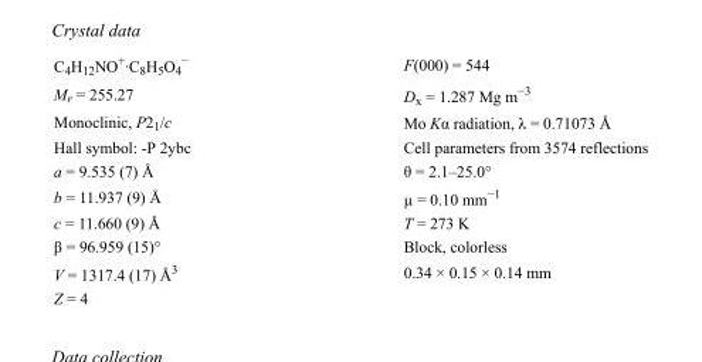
<table><tbody><tr><td>C<sub>4</sub>H<sub>12</sub>NO<sup>+</sup>·C<sub>8</sub>H<sub>5</sub>O<sub>4</sub> <sup>−</sup></td><td>F(000) = 544</td></tr><tr><td>M<sub>r</sub> = 255.27</td><td>D<sub>x</sub> = 1.287 Mg m<sup>−3</sup></td></tr><tr><td>Monoclinic, P2<sub>1</sub>/c</td><td>Mo Kα radiation, λ = 0.71073 Å</td></tr><tr><td>Hall symbol: -P 2ybc</td><td>Cell parameters from 3574 reflections</td></tr><tr><td>a = 9.535 (7) Å</td><td>θ = 2.1–25.0°</td></tr><tr><td>b = 11.937 (9) Å</td><td>µ = 0.10 mm<sup>−1</sup></td></tr><tr><td>c = 11.660 (9) Å</td><td>T = 273 K</td></tr><tr><td>β = 96.959 (15)°</td><td>Block, colorless</td></tr><tr><td>V = 1317.4 (17) Å<sup>3</sup></td><td>0.34 × 0.15 × 0.14 mm</td></tr><tr><td>Z = 4</td><td></td></tr></tbody></table>